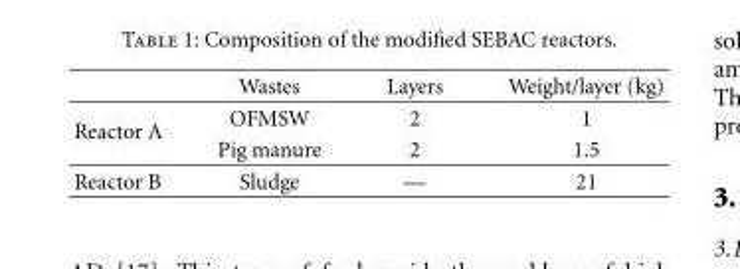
<table><thead><tr><td></td><td>Wastes</td><td>Layers</td><td>Weight/layer (kg)</td></tr></thead><tbody><tr><td rowspan="2">Reactor A</td><td>OFMSW</td><td>2</td><td>1</td></tr><tr><td>Pig manure</td><td>2</td><td>1.5</td></tr><tr><td>Reactor B</td><td>Sludge</td><td>—</td><td>21</td></tr></tbody></table>